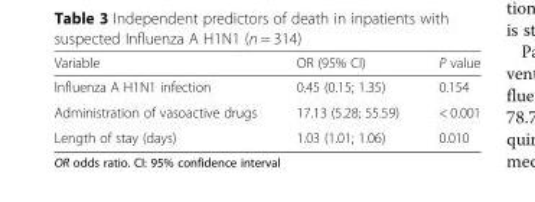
<table><thead><tr><td>Variable</td><td>OR (95% CI)</td><td>P value</td></tr></thead><tbody><tr><td>Influenza A H1N1 infection</td><td>0.45 (0.15; 1.35)</td><td>0.154</td></tr><tr><td>Administration of vasoactive drugs</td><td>17.13 (5.28; 55.59)</td><td>&lt; 0.001</td></tr><tr><td>Length of stay (days)</td><td>1.03 (1.01; 1.06)</td><td>0.010</td></tr></tbody></table>